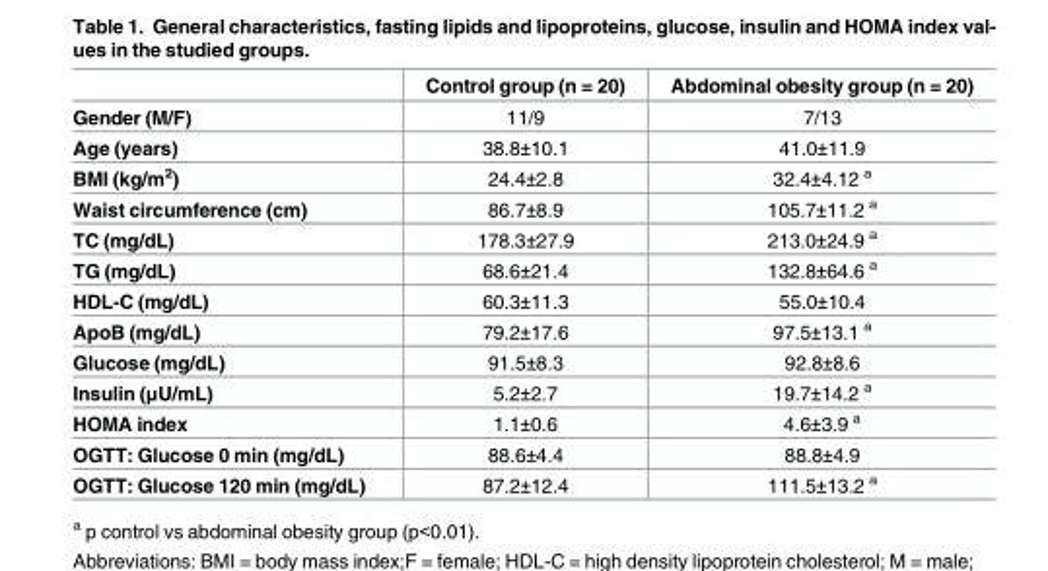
<table><thead><tr><td></td><td>Control group (n = 20)</td><td>Abdominal obesity group (n = 20)</td></tr></thead><tbody><tr><td>Gender (M/F)</td><td>11/9</td><td>7/13</td></tr><tr><td>Age (years)</td><td>38.8±10.1</td><td>41.0±11.9</td></tr><tr><td>BMI (kg/m<sup>2</sup>)</td><td>24.4±2.8</td><td>32.4±4.12 <sup>a</sup></td></tr><tr><td>Waist circumference (cm)</td><td>86.7±8.9</td><td>105.7±11.2 <sup>a</sup></td></tr><tr><td>TC (mg/dL)</td><td>178.3±27.9</td><td>213.0±24.9 <sup>a</sup></td></tr><tr><td>TG (mg/dL)</td><td>68.6±21.4</td><td>132.8±64.6 <sup>a</sup></td></tr><tr><td>HDL-C (mg/dL)</td><td>60.3±11.3</td><td>55.0±10.4</td></tr><tr><td>ApoB (mg/dL)</td><td>79.2±17.6</td><td>97.5±13.1 <sup>a</sup></td></tr><tr><td>Glucose (mg/dL)</td><td>91.5±8.3</td><td>92.8±8.6</td></tr><tr><td>Insulin (μU/mL)</td><td>5.2±2.7</td><td>19.7±14.2 <sup>a</sup></td></tr><tr><td>HOMA index</td><td>1.1±0.6</td><td>4.6±3.9 <sup>a</sup></td></tr><tr><td>OGTT: Glucose 0 min (mg/dL)</td><td>88.6±4.4</td><td>88.8±4.9</td></tr><tr><td>OGTT: Glucose 120 min (mg/dL)</td><td>87.2±12.4</td><td>111.5±13.2 <sup>a</sup></td></tr></tbody></table>